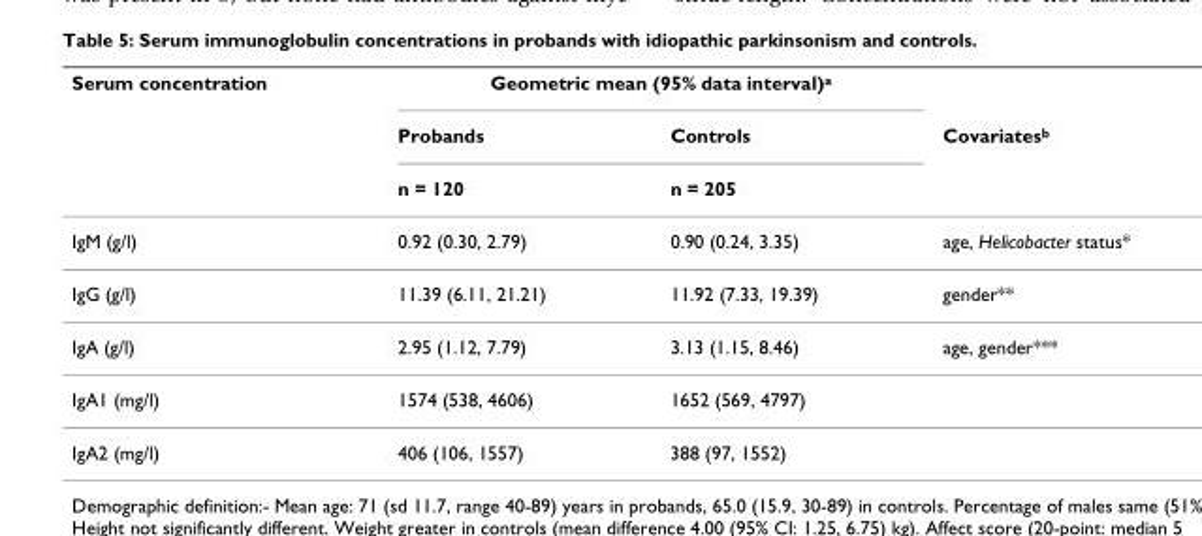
<table><thead><tr><td rowspan="3">Serum concentration</td><td colspan="2">Geometric mean (95% data interval)<sup>a</sup></td><td rowspan="3">Covariates<sup>b</sup></td></tr><tr><td rowspan="2">Probands n = 120</td><td rowspan="2">Controls n = 205</td></tr><tr></tr></thead><tbody><tr><td>IgM (g/l)</td><td>0.92 (0.30, 2.79)</td><td>0.90 (0.24, 3.35)</td><td>age, Helicobacter status*</td></tr><tr><td>IgG (g/l)</td><td>11.39 (6.11, 21.21)</td><td>11.92 (7.33, 19.39)</td><td>gender**</td></tr><tr><td>IgA (g/l)</td><td>2.95 (1.12, 7.79)</td><td>3.13 (1.15, 8.46)</td><td>age, gender***</td></tr><tr><td>IgA1 (mg/l)</td><td>1574 (538, 4606)</td><td>1652 (569, 4797)</td><td></td></tr><tr><td>IgA2 (mg/l)</td><td>406 (106, 1557)</td><td>388 (97, 1552)</td><td></td></tr></tbody></table>